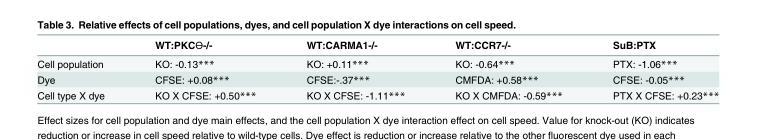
<table><thead><tr><td></td><td>WT:PKCƟ-/-</td><td>WT:CARMA1-/-</td><td>WT:CCR7-/-</td><td>SuB:PTX</td></tr></thead><tbody><tr><td>Cell population</td><td>KO: -0.13***</td><td>KO: +0.11***</td><td>KO: -0.64***</td><td>PTX: -1.06***</td></tr><tr><td>Dye</td><td>CFSE: +0.08***</td><td>CFSE:-.37***</td><td>CMFDA: +0.58***</td><td>CFSE: -0.05***</td></tr><tr><td>Cell type X dye</td><td>KO X CFSE: +0.50***</td><td>KO X CFSE: -1.11***</td><td>KO X CMFDA: -0.59***</td><td>PTX X CFSE: +0.23***</td></tr></tbody></table>